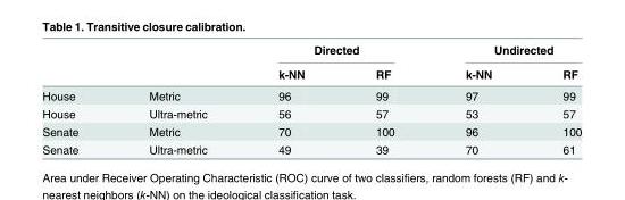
<table><thead><tr><td rowspan="2"></td><td rowspan="2"></td><td colspan="2">Directed</td><td colspan="2">Undirected</td></tr><tr><td>k-NN</td><td>RF</td><td>k-NN</td><td>RF</td></tr></thead><tbody><tr><td>House</td><td>Metric</td><td>96</td><td>99</td><td>97</td><td>99</td></tr><tr><td>House</td><td>Ultra-metric</td><td>56</td><td>57</td><td>53</td><td>57</td></tr><tr><td>Senate</td><td>Metric</td><td>70</td><td>100</td><td>96</td><td>100</td></tr><tr><td>Senate</td><td>Ultra-metric</td><td>49</td><td>39</td><td>70</td><td>61</td></tr></tbody></table>